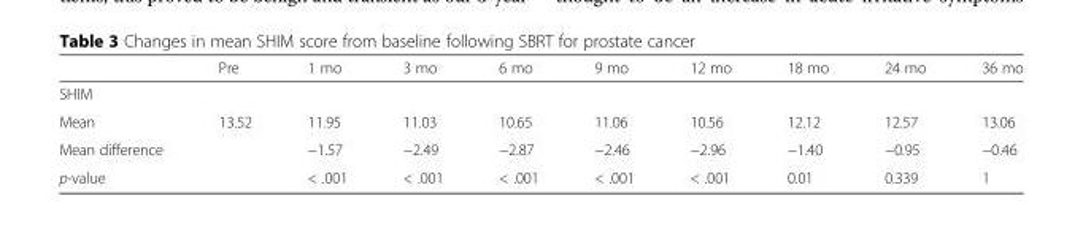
<table><thead><tr><td></td><td>Pre</td><td>1 mo</td><td>3 mo</td><td>6 mo</td><td>9 mo</td><td>12 mo</td><td>18 mo</td><td>24 mo</td><td>36 mo</td></tr></thead><tbody><tr><td colspan="10">SHIM</td></tr><tr><td>Mean</td><td>13.52</td><td>11.95</td><td>11.03</td><td>10.65</td><td>11.06</td><td>10.56</td><td>12.12</td><td>12.57</td><td>13.06</td></tr><tr><td>Mean difference</td><td rowspan="2"></td><td>−1.57</td><td>−2.49</td><td>−2.87</td><td>−2.46</td><td>−2.96</td><td>−1.40</td><td>−0.95</td><td>−0.46</td></tr><tr><td>p-value</td><td>&lt; .001</td><td>&lt; .001</td><td>&lt; .001</td><td>&lt; .001</td><td>&lt; .001</td><td>0.01</td><td>0.339</td><td>1</td></tr></tbody></table>